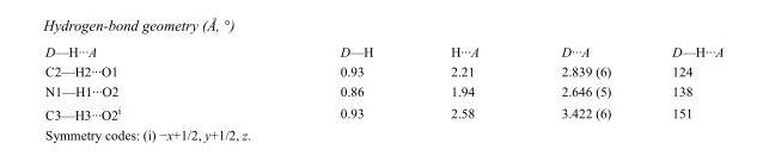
<table><tbody><tr><td>D—H···A</td><td>D—H</td><td>H···A</td><td>D···A</td><td>D—H···A</td></tr><tr><td>C2—H2···O1</td><td>0.93</td><td>2.21</td><td>2.839 (6)</td><td>124</td></tr><tr><td>N1—H1···O2</td><td>0.86</td><td>1.94</td><td>2.646 (5)</td><td>138</td></tr><tr><td>C3—H3···O2<sup>i</sup></td><td>0.93</td><td>2.58</td><td>3.422 (6)</td><td>151</td></tr></tbody></table>